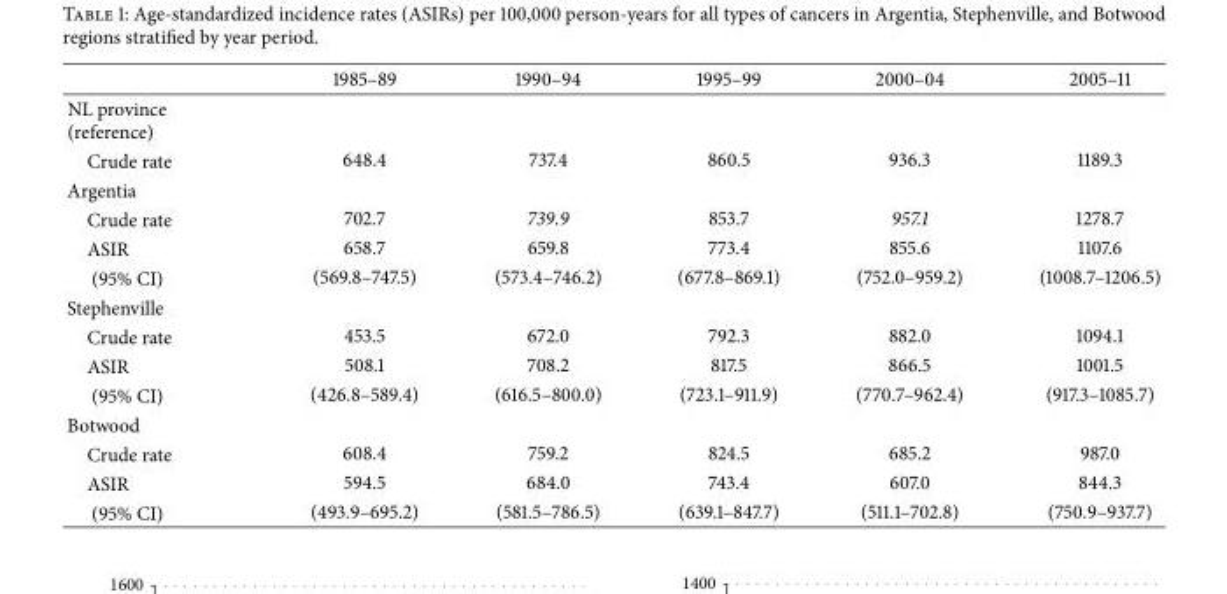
<table><thead><tr><td></td><td>1985–89</td><td>1990–94</td><td>1995–99</td><td>2000–04</td><td>2005–11</td></tr></thead><tbody><tr><td colspan="6">NL province (reference)</td></tr><tr><td>Crude rate</td><td>648.4</td><td>737.4</td><td>860.5</td><td>936.3</td><td>1189.3</td></tr><tr><td colspan="6">Argentia</td></tr><tr><td>Crude rate</td><td>702.7</td><td>739.9</td><td>853.7</td><td>957.1</td><td>1278.7</td></tr><tr><td>ASIR</td><td>658.7</td><td>659.8</td><td>773.4</td><td>855.6</td><td>1107.6</td></tr><tr><td>(95% CI)</td><td>(569.8–747.5)</td><td>(573.4–746.2)</td><td>(677.8–869.1)</td><td>(752.0–959.2)</td><td>(1008.7–1206.5)</td></tr><tr><td colspan="6">Stephenville</td></tr><tr><td>Crude rate</td><td>453.5</td><td>672.0</td><td>792.3</td><td>882.0</td><td>1094.1</td></tr><tr><td>ASIR</td><td>508.1</td><td>708.2</td><td>817.5</td><td>866.5</td><td>1001.5</td></tr><tr><td>(95% CI)</td><td>(426.8–589.4)</td><td>(616.5–800.0)</td><td>(723.1–911.9)</td><td>(770.7–962.4)</td><td>(917.3–1085.7)</td></tr><tr><td colspan="6">Botwood</td></tr><tr><td>Crude rate</td><td>608.4</td><td>759.2</td><td>824.5</td><td>685.2</td><td>987.0</td></tr><tr><td>ASIR</td><td>594.5</td><td>684.0</td><td>743.4</td><td>607.0</td><td>844.3</td></tr><tr><td>(95% CI)</td><td>(493.9–695.2)</td><td>(581.5–786.5)</td><td>(639.1–847.7)</td><td>(511.1–702.8)</td><td>(750.9–937.7)</td></tr></tbody></table>